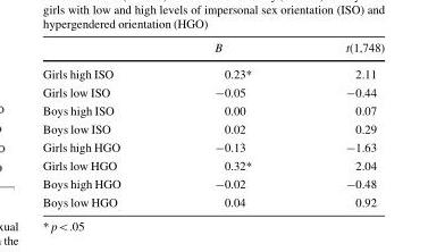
<table><thead><tr><td></td><td>B</td><td>t(1,748)</td></tr></thead><tbody><tr><td>Girls high ISO</td><td>0.23*</td><td>2.11</td></tr><tr><td>Girls low ISO</td><td>-0.05</td><td>-0.44</td></tr><tr><td>Boys high ISO</td><td>0.00</td><td>0.07</td></tr><tr><td>Boys low ISO</td><td>0.02</td><td>0.29</td></tr><tr><td>Girls high HGO</td><td>-0.13</td><td>-1.63</td></tr><tr><td>Girls low HGO</td><td>0.32*</td><td>2.04</td></tr><tr><td>Boys high HGO</td><td>-0.02</td><td>-0.48</td></tr><tr><td>Boys low HGO</td><td>0.04</td><td>0.92</td></tr></tbody></table>